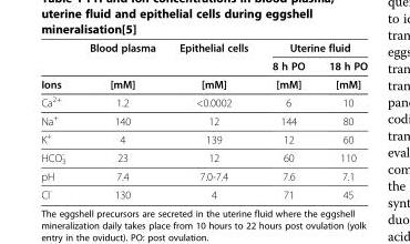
<table><thead><tr><td rowspan="2"></td><td rowspan="2">Blood plasma</td><td rowspan="2">Epithelial cells</td><td colspan="2">Uterine fluid</td></tr><tr><td>8 h PO</td><td>18 h PO</td></tr></thead><tbody><tr><td>Ions</td><td>[mM]</td><td>[mM]</td><td>[mM]</td><td>[mM]</td></tr><tr><td>Ca<sup>2+</sup></td><td>1.2</td><td>&lt;0.0002</td><td>6</td><td>10</td></tr><tr><td>Na<sup>+</sup></td><td>140</td><td>12</td><td>144</td><td>80</td></tr><tr><td>K<sup>+</sup></td><td>4</td><td>139</td><td>12</td><td>60</td></tr><tr><td>HCO<sub>3</sub> <sup>-</sup></td><td>23</td><td>12</td><td>60</td><td>110</td></tr><tr><td>pH</td><td>7.4</td><td>7.0-7.4</td><td>7.6</td><td>7.1</td></tr><tr><td>Cl<sup>-</sup></td><td>130</td><td>4</td><td>71</td><td>45</td></tr></tbody></table>